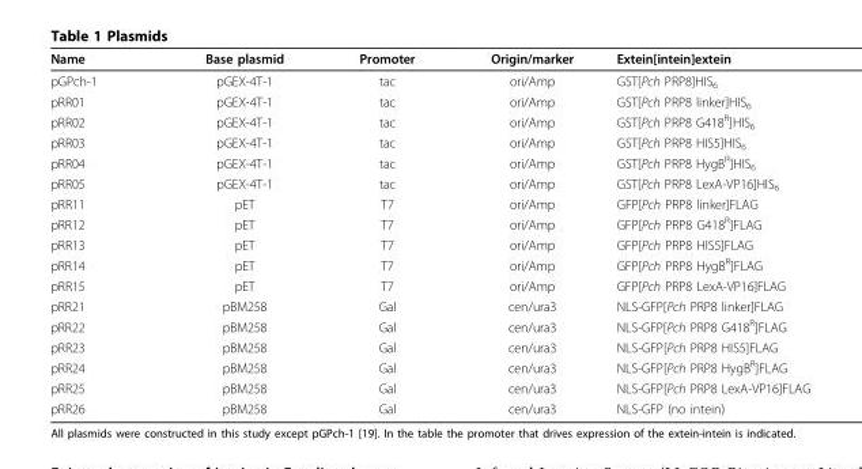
<table><thead><tr><td>Name</td><td>Base plasmid</td><td>Promoter</td><td>Origin/marker</td><td>Extein[intein]extein</td></tr></thead><tbody><tr><td>pGPch-1</td><td>pGEX-4T-1</td><td>tac</td><td>ori/Amp</td><td>GST[Pch PRP8]HIS<sub>6</sub></td></tr><tr><td>pRR01</td><td>pGEX-4T-1</td><td>tac</td><td>ori/Amp</td><td>GST[Pch PRP8 linker]HIS<sub>6</sub></td></tr><tr><td>pRR02</td><td>pGEX-4T-1</td><td>tac</td><td>ori/Amp</td><td>GST[Pch PRP8 G418<sup>R</sup>]HIS<sub>6</sub></td></tr><tr><td>pRR03</td><td>pGEX-4T-1</td><td>tac</td><td>ori/Amp</td><td>GST[Pch PRP8 HIS5]HIS<sub>6</sub></td></tr><tr><td>pRR04</td><td>pGEX-4T-1</td><td>tac</td><td>ori/Amp</td><td>GST[Pch PRP8 HygB<sup>R</sup>]HIS<sub>6</sub></td></tr><tr><td>pRR05</td><td>pGEX-4T-1</td><td>tac</td><td>ori/Amp</td><td>GST[Pch PRP8 LexA-VP16]HIS<sub>6</sub></td></tr><tr><td>pRR11</td><td>pET</td><td>T7</td><td>ori/Amp</td><td>GFP[Pch PRP8 linker]FLAG</td></tr><tr><td>pRR12</td><td>pET</td><td>T7</td><td>ori/Amp</td><td>GFP[Pch PRP8 G418<sup>R</sup>]FLAG</td></tr><tr><td>pRR13</td><td>pET</td><td>T7</td><td>ori/Amp</td><td>GFP[Pch PRP8 HIS5]FLAG</td></tr><tr><td>pRR14</td><td>pET</td><td>T7</td><td>ori/Amp</td><td>GFP[Pch PRP8 HygB<sup>R</sup>]FLAG</td></tr><tr><td>pRR15</td><td>pET</td><td>T7</td><td>ori/Amp</td><td>GFP[Pch PRP8 LexA-VP16]FLAG</td></tr><tr><td>pRR21</td><td>pBM258</td><td>Gal</td><td>cen/ura3</td><td>NLS-GFP[Pch PRP8 linker]FLAG</td></tr><tr><td>pRR22</td><td>pBM258</td><td>Gal</td><td>cen/ura3</td><td>NLS-GFP[Pch PRP8 G418<sup>R</sup>]FLAG</td></tr><tr><td>pRR23</td><td>pBM258</td><td>Gal</td><td>cen/ura3</td><td>NLS-GFP[Pch PRP8 HIS5]FLAG</td></tr><tr><td>pRR24</td><td>pBM258</td><td>Gal</td><td>cen/ura3</td><td>NLS-GFP[Pch PRP8 HygB<sup>R</sup>]FLAG</td></tr><tr><td>pRR25</td><td>pBM258</td><td>Gal</td><td>cen/ura3</td><td>NLS-GFP[Pch PRP8 LexA-VP16]FLAG</td></tr><tr><td>pRR26</td><td>pBM258</td><td>Gal</td><td>cen/ura3</td><td>NLS-GFP (no intein)</td></tr></tbody></table>